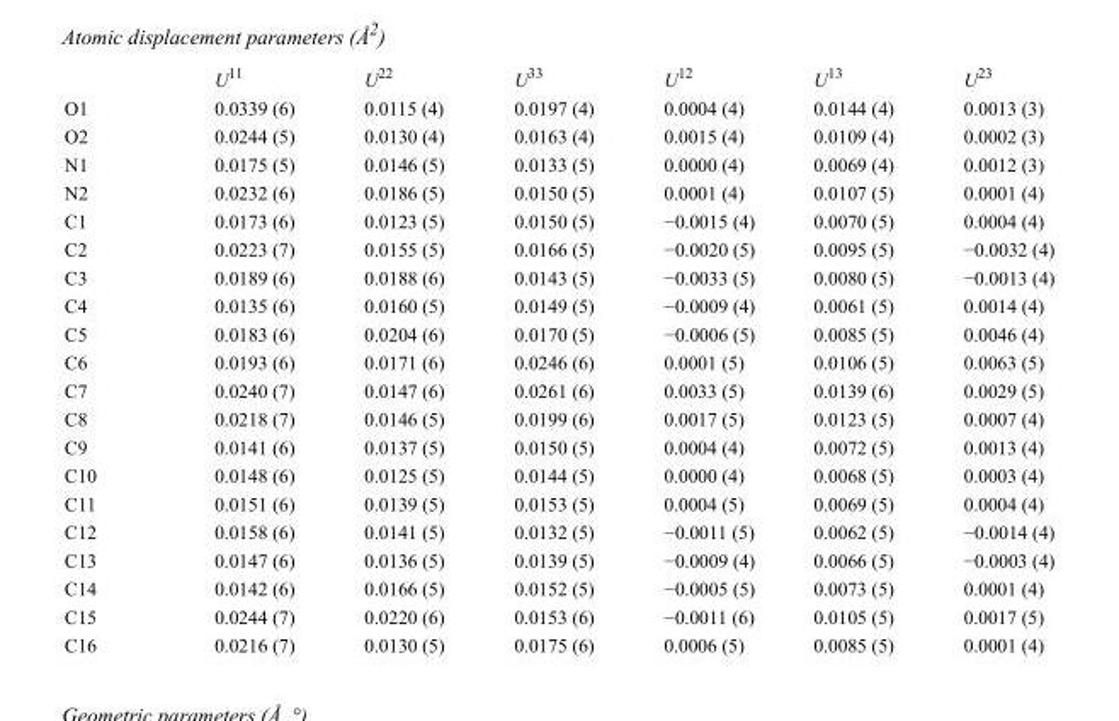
<table><thead><tr><td></td><td>U<sup>11</sup></td><td>U<sup>22</sup></td><td>U<sup>33</sup></td><td>U<sup>12</sup></td><td>U<sup>13</sup></td><td>U<sup>23</sup></td></tr></thead><tbody><tr><td>O1</td><td>0.0339 (6)</td><td>0.0115 (4)</td><td>0.0197 (4)</td><td>0.0004 (4)</td><td>0.0144 (4)</td><td>0.0013 (3)</td></tr><tr><td>O2</td><td>0.0244 (5)</td><td>0.0130 (4)</td><td>0.0163 (4)</td><td>0.0015 (4)</td><td>0.0109 (4)</td><td>0.0002 (3)</td></tr><tr><td>N1</td><td>0.0175 (5)</td><td>0.0146 (5)</td><td>0.0133 (5)</td><td>0.0000 (4)</td><td>0.0069 (4)</td><td>0.0012 (3)</td></tr><tr><td>N2</td><td>0.0232 (6)</td><td>0.0186 (5)</td><td>0.0150 (5)</td><td>0.0001 (4)</td><td>0.0107 (5)</td><td>0.0001 (4)</td></tr><tr><td>C1</td><td>0.0173 (6)</td><td>0.0123 (5)</td><td>0.0150 (5)</td><td>−0.0015 (4)</td><td>0.0070 (5)</td><td>0.0004 (4)</td></tr><tr><td>C2</td><td>0.0223 (7)</td><td>0.0155 (5)</td><td>0.0166 (5)</td><td>−0.0020 (5)</td><td>0.0095 (5)</td><td>−0.0032 (4)</td></tr><tr><td>C3</td><td>0.0189 (6)</td><td>0.0188 (6)</td><td>0.0143 (5)</td><td>−0.0033 (5)</td><td>0.0080 (5)</td><td>−0.0013 (4)</td></tr><tr><td>C4</td><td>0.0135 (6)</td><td>0.0160 (5)</td><td>0.0149 (5)</td><td>−0.0009 (4)</td><td>0.0061 (5)</td><td>0.0014 (4)</td></tr><tr><td>C5</td><td>0.0183 (6)</td><td>0.0204 (6)</td><td>0.0170 (5)</td><td>−0.0006 (5)</td><td>0.0085 (5)</td><td>0.0046 (4)</td></tr><tr><td>C6</td><td>0.0193 (6)</td><td>0.0171 (6)</td><td>0.0246 (6)</td><td>0.0001 (5)</td><td>0.0106 (5)</td><td>0.0063 (5)</td></tr><tr><td>C7</td><td>0.0240 (7)</td><td>0.0147 (6)</td><td>0.0261 (6)</td><td>0.0033 (5)</td><td>0.0139 (6)</td><td>0.0029 (5)</td></tr><tr><td>C8</td><td>0.0218 (7)</td><td>0.0146 (5)</td><td>0.0199 (6)</td><td>0.0017 (5)</td><td>0.0123 (5)</td><td>0.0007 (4)</td></tr><tr><td>C9</td><td>0.0141 (6)</td><td>0.0137 (5)</td><td>0.0150 (5)</td><td>0.0004 (4)</td><td>0.0072 (5)</td><td>0.0013 (4)</td></tr><tr><td>C10</td><td>0.0148 (6)</td><td>0.0125 (5)</td><td>0.0144 (5)</td><td>0.0000 (4)</td><td>0.0068 (5)</td><td>0.0003 (4)</td></tr><tr><td>C11</td><td>0.0151 (6)</td><td>0.0139 (5)</td><td>0.0153 (5)</td><td>0.0004 (5)</td><td>0.0069 (5)</td><td>0.0004 (4)</td></tr><tr><td>C12</td><td>0.0158 (6)</td><td>0.0141 (5)</td><td>0.0132 (5)</td><td>−0.0011 (5)</td><td>0.0062 (5)</td><td>−0.0014 (4)</td></tr><tr><td>C13</td><td>0.0147 (6)</td><td>0.0136 (5)</td><td>0.0139 (5)</td><td>−0.0009 (4)</td><td>0.0066 (5)</td><td>−0.0003 (4)</td></tr><tr><td>C14</td><td>0.0142 (6)</td><td>0.0166 (5)</td><td>0.0152 (5)</td><td>−0.0005 (5)</td><td>0.0073 (5)</td><td>0.0001 (4)</td></tr><tr><td>C15</td><td>0.0244 (7)</td><td>0.0220 (6)</td><td>0.0153 (6)</td><td>−0.0011 (6)</td><td>0.0105 (5)</td><td>0.0017 (5)</td></tr><tr><td>C16</td><td>0.0216 (7)</td><td>0.0130 (5)</td><td>0.0175 (6)</td><td>0.0006 (5)</td><td>0.0085 (5)</td><td>0.0001 (4)</td></tr></tbody></table>